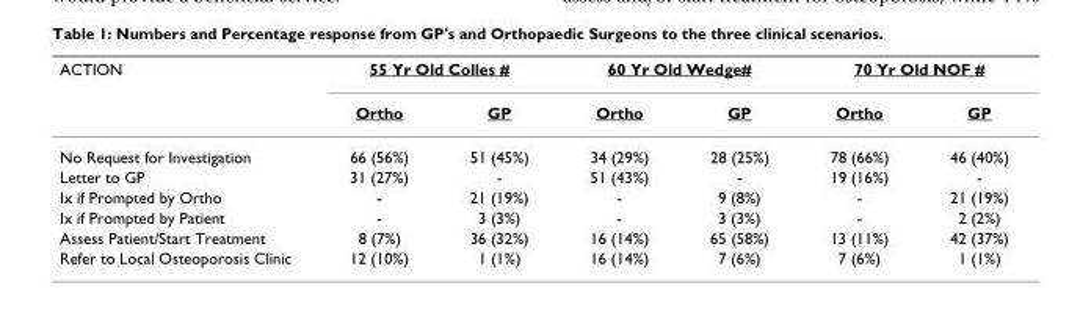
<table><thead><tr><td rowspan="2">ACTION</td><td colspan="2">55 Yr Old Colles #</td><td colspan="2">60 Yr Old Wedge#</td><td colspan="2">70 Yr Old NOF #</td></tr><tr><td>Ortho</td><td>GP</td><td>Ortho</td><td>GP</td><td>Ortho</td><td>GP</td></tr></thead><tbody><tr><td>No Request for Investigation</td><td>66 (56%)</td><td>51 (45%)</td><td>34 (29%)</td><td>28 (25%)</td><td>78 (66%)</td><td>46 (40%)</td></tr><tr><td>Letter to GP</td><td>31 (27%)</td><td>-</td><td>51 (43%)</td><td>-</td><td>19 (16%)</td><td>-</td></tr><tr><td>Ix if Prompted by Ortho</td><td>-</td><td>21 (19%)</td><td>-</td><td>9 (8%)</td><td>-</td><td>21 (19%)</td></tr><tr><td>Ix if Prompted by Patient</td><td>-</td><td>3 (3%)</td><td>-</td><td>3 (3%)</td><td>-</td><td>2 (2%)</td></tr><tr><td>Assess Patient/Start Treatment</td><td>8 (7%)</td><td>36 (32%)</td><td>16 (14%)</td><td>65 (58%)</td><td>13 (11%)</td><td>42 (37%)</td></tr><tr><td>Refer to Local Osteoporosis Clinic</td><td>12 (10%)</td><td>1 (1%)</td><td>16 (14%)</td><td>7 (6%)</td><td>7 (6%)</td><td>1 (1%)</td></tr></tbody></table>